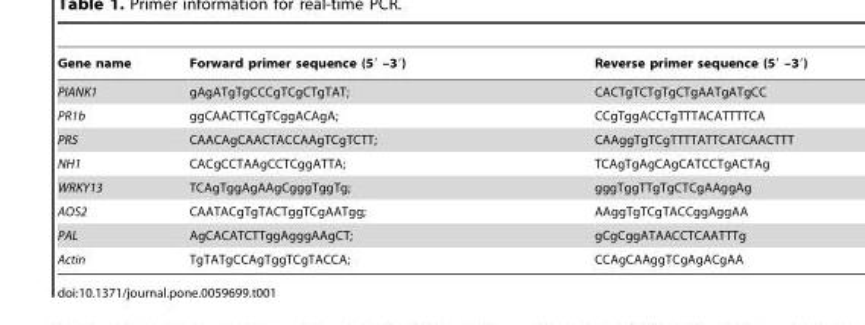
<table><thead><tr><td>Gene name</td><td>Forward primer sequence (5′ –3′)</td><td>Reverse primer sequence (5′ –3′)</td></tr></thead><tbody><tr><td>PIANK1</td><td>gAgATgTgCCCgTCgCTgTAT;</td><td>CACTgTCTgTgCTgAATgATgCC</td></tr><tr><td>PR1b</td><td>ggCAACTTCgTCggACAgA;</td><td>CCgTggACCTgTTTACATTTTCA</td></tr><tr><td>PR5</td><td>CAACAgCAACTACCAAgTCgTCTT;</td><td>CAAggTgTCgTTTTATTCATCAACTTT</td></tr><tr><td>NH1</td><td>CACgCCTAAgCCTCggATTA;</td><td>TCAgTgAgCAgCATCCTgACTAg</td></tr><tr><td>WRKY13</td><td>TCAgTggAgAAgCgggTggTg;</td><td>gggTggTTgTgCTCgAAggAg</td></tr><tr><td>AOS2</td><td>CAATACgTgTACTggTCgAATgg;</td><td>AAggTgTCgTACCggAggAA</td></tr><tr><td>PAL</td><td>AgCACATCTTggAgggAAgCT;</td><td>gCgCggATAACCTCAATTTg</td></tr><tr><td>Actin</td><td>TgTATgCCAgTggTCgTACCA;</td><td>CCAgCAAggTCgAgACgAA</td></tr></tbody></table>